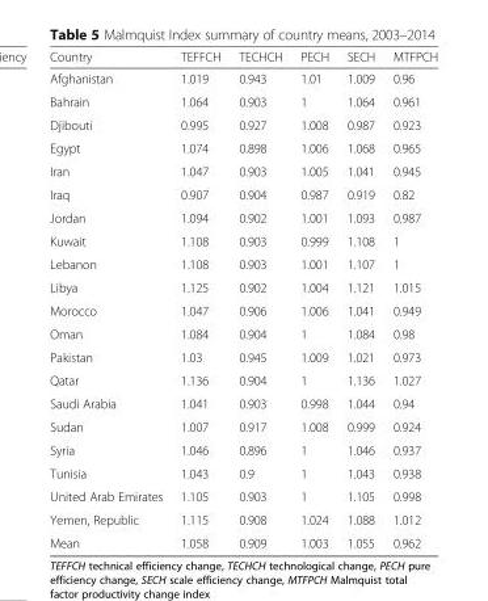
<table><thead><tr><td>Country</td><td>TEFFCH</td><td>TECHCH</td><td>PECH</td><td>SECH</td><td>MTFPCH</td></tr></thead><tbody><tr><td>Afghanistan</td><td>1.019</td><td>0.943</td><td>1.01</td><td>1.009</td><td>0.96</td></tr><tr><td>Bahrain</td><td>1.064</td><td>0.903</td><td>1</td><td>1.064</td><td>0.961</td></tr><tr><td>Djibouti</td><td>0.995</td><td>0.927</td><td>1.008</td><td>0.987</td><td>0.923</td></tr><tr><td>Egypt</td><td>1.074</td><td>0.898</td><td>1.006</td><td>1.068</td><td>0.965</td></tr><tr><td>Iran</td><td>1.047</td><td>0.903</td><td>1.005</td><td>1.041</td><td>0.945</td></tr><tr><td>Iraq</td><td>0.907</td><td>0.904</td><td>0.987</td><td>0.919</td><td>0.82</td></tr><tr><td>Jordan</td><td>1.094</td><td>0.902</td><td>1.001</td><td>1.093</td><td>0.987</td></tr><tr><td>Kuwait</td><td>1.108</td><td>0.903</td><td>0.999</td><td>1.108</td><td>1</td></tr><tr><td>Lebanon</td><td>1.108</td><td>0.903</td><td>1.001</td><td>1.107</td><td>1</td></tr><tr><td>Libya</td><td>1.125</td><td>0.902</td><td>1.004</td><td>1.121</td><td>1.015</td></tr><tr><td>Morocco</td><td>1.047</td><td>0.906</td><td>1.006</td><td>1.041</td><td>0.949</td></tr><tr><td>Oman</td><td>1.084</td><td>0.904</td><td>1</td><td>1.084</td><td>0.98</td></tr><tr><td>Pakistan</td><td>1.03</td><td>0.945</td><td>1.009</td><td>1.021</td><td>0.973</td></tr><tr><td>Qatar</td><td>1.136</td><td>0.904</td><td>1</td><td>1.136</td><td>1.027</td></tr><tr><td>Saudi Arabia</td><td>1.041</td><td>0.903</td><td>0.998</td><td>1.044</td><td>0.94</td></tr><tr><td>Sudan</td><td>1.007</td><td>0.917</td><td>1.008</td><td>0.999</td><td>0.924</td></tr><tr><td>Syria</td><td>1.046</td><td>0.896</td><td>1</td><td>1.046</td><td>0.937</td></tr><tr><td>Tunisia</td><td>1.043</td><td>0.9</td><td>1</td><td>1.043</td><td>0.938</td></tr><tr><td>United Arab Emirates</td><td>1.105</td><td>0.903</td><td>1</td><td>1.105</td><td>0.998</td></tr><tr><td>Yemen, Republic</td><td>1.115</td><td>0.908</td><td>1.024</td><td>1.088</td><td>1.012</td></tr><tr><td>Mean</td><td>1.058</td><td>0.909</td><td>1.003</td><td>1.055</td><td>0.962</td></tr></tbody></table>